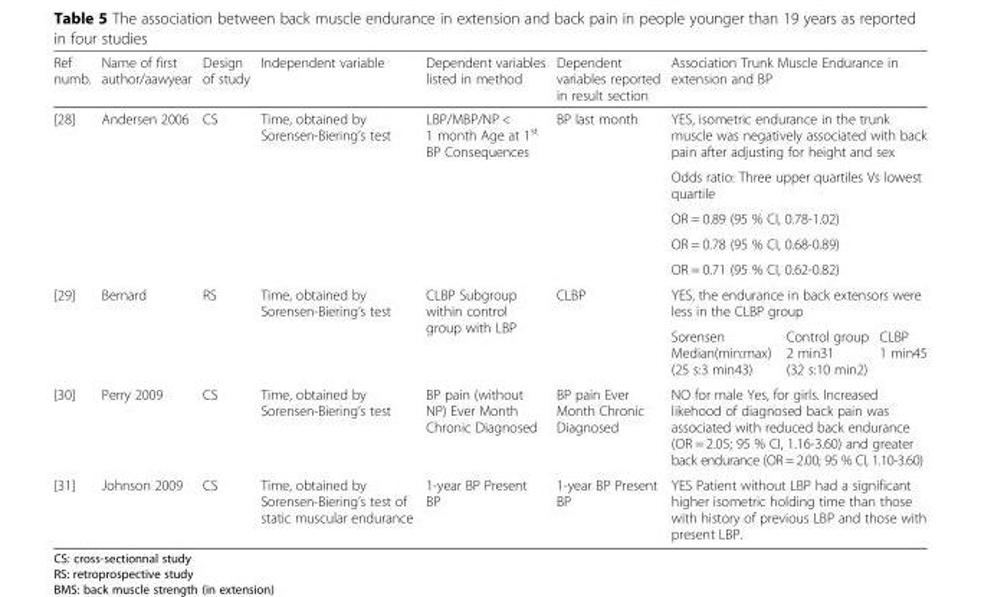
<table><thead><tr><td>Ref numb.</td><td>Name of first author/aawyear</td><td>Design of study</td><td>Independent variable</td><td>Dependent variables listed in method</td><td>Dependent variables reported in result section</td><td colspan="3">Association Trunk Muscle Endurance in extension and BP</td></tr></thead><tbody><tr><td rowspan="5">[28]</td><td rowspan="5">Andersen 2006</td><td rowspan="5">CS</td><td rowspan="5">Time, obtained by Sorensen-Biering’s test</td><td rowspan="5">LBP/MBP/NP &lt; 1 month Age at 1<sup>st</sup> BP Consequences</td><td rowspan="5">BP last month</td><td colspan="3">YES, isometric endurance in the trunk muscle was negatively associated with back pain after adjusting for height and sex</td></tr><tr><td colspan="3">Odds ratio: Three upper quartiles Vs lowest quartile</td></tr><tr><td colspan="3">OR = 0.89 (95 % CI, 0.78-1.02)</td></tr><tr><td colspan="3">OR = 0.78 (95 % CI, 0.68-0.89)</td></tr><tr><td colspan="3">OR = 0.71 (95 % CI, 0.62-0.82)</td></tr><tr><td rowspan="2">[29]</td><td rowspan="2">Bernard</td><td rowspan="2">RS</td><td rowspan="2">Time, obtained by Sorensen-Biering’s test</td><td rowspan="2">CLBP Subgroup within control group with LBP</td><td rowspan="2">CLBP</td><td colspan="3">YES, the endurance in back extensors were less in the CLBP group</td></tr><tr><td>Sorensen Median(min:max) (25 s:3 min43)</td><td>Control group 2 min31 (32 s:10 min2)</td><td>CLBP 1 min45</td></tr><tr><td>[30]</td><td>Perry 2009</td><td>CS</td><td>Time, obtained by Sorensen-Biering’s test</td><td>BP pain (without NP) Ever Month Chronic Diagnosed</td><td>BP pain Ever Month Chronic Diagnosed</td><td colspan="3">NO for male Yes, for girls. Increased likehood of diagnosed back pain was associated with reduced back endurance (OR = 2.05; 95 % CI, 1.16-3.60) and greater back endurance (OR = 2.00; 95 % CI, 1.10-3.60)</td></tr><tr><td>[31]</td><td>Johnson 2009</td><td>CS</td><td>Time, obtained by Sorensen-Biering’s test of static muscular endurance</td><td>1-year BP Present BP</td><td>1-year BP Present BP</td><td colspan="3">YES Patient without LBP had a significant higher isometric holding time than those with history of previous LBP and those with present LBP.</td></tr></tbody></table>